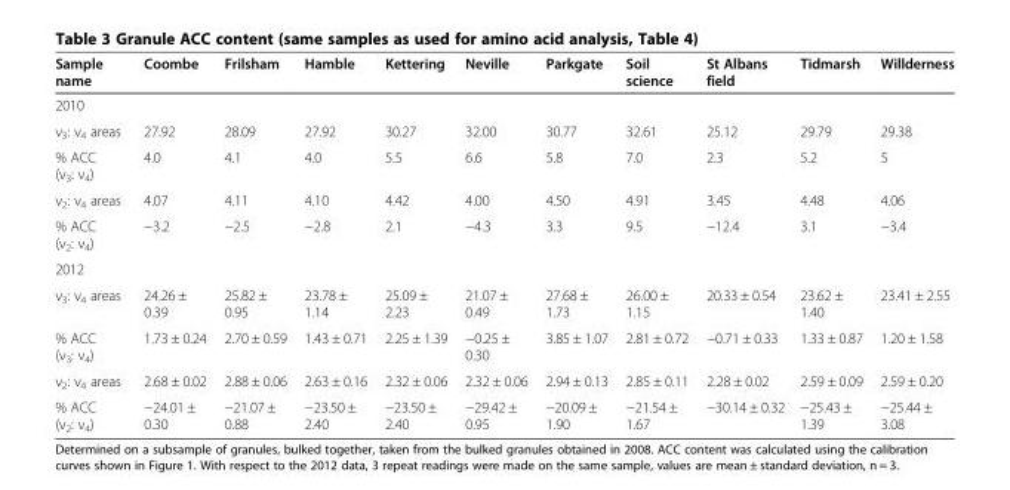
<table><thead><tr><td>Sample name</td><td>Coombe</td><td>Frilsham</td><td>Hamble</td><td>Kettering</td><td>Neville</td><td>Parkgate</td><td>Soil science</td><td>St Albans field</td><td>Tidmarsh</td><td>Willderness</td></tr></thead><tbody><tr><td colspan="11">2010</td></tr><tr><td>ν<sub>3</sub>: ν<sub>4</sub> areas</td><td>27.92</td><td>28.09</td><td>27.92</td><td>30.27</td><td>32.00</td><td>30.77</td><td>32.61</td><td>25.12</td><td>29.79</td><td>29.38</td></tr><tr><td>% ACC (ν<sub>3</sub>: ν<sub>4</sub>)</td><td>4.0</td><td>4.1</td><td>4.0</td><td>5.5</td><td>6.6</td><td>5.8</td><td>7.0</td><td>2.3</td><td>5.2</td><td>5</td></tr><tr><td>ν<sub>2</sub>: ν<sub>4</sub> areas</td><td>4.07</td><td>4.11</td><td>4.10</td><td>4.42</td><td>4.00</td><td>4.50</td><td>4.91</td><td>3.45</td><td>4.48</td><td>4.06</td></tr><tr><td>% ACC (ν<sub>2</sub>: ν<sub>4</sub>)</td><td>−3.2</td><td>−2.5</td><td>−2.8</td><td>2.1</td><td>−4.3</td><td>3.3</td><td>9.5</td><td>−12.4</td><td>3.1</td><td>−3.4</td></tr><tr><td colspan="11">2012</td></tr><tr><td>ν<sub>3</sub>: ν<sub>4</sub> areas</td><td>24.26 ± 0.39</td><td>25.82 ± 0.95</td><td>23.78 ± 1.14</td><td>25.09 ± 2.23</td><td>21.07 ± 0.49</td><td>27.68 ± 1.73</td><td>26.00 ± 1.15</td><td>20.33 ± 0.54</td><td>23.62 ± 1.40</td><td>23.41 ± 2.55</td></tr><tr><td>% ACC (ν<sub>3</sub>: ν<sub>4</sub>)</td><td>1.73 ± 0.24</td><td>2.70 ± 0.59</td><td>1.43 ± 0.71</td><td>2.25 ± 1.39</td><td>−0.25 ± 0.30</td><td>3.85 ± 1.07</td><td>2.81 ± 0.72</td><td>−0.71 ± 0.33</td><td>1.33 ± 0.87</td><td>1.20 ± 1.58</td></tr><tr><td>ν<sub>2</sub>: ν<sub>4</sub> areas</td><td>2.68 ± 0.02</td><td>2.88 ± 0.06</td><td>2.63 ± 0.16</td><td>2.32 ± 0.06</td><td>2.32 ± 0.06</td><td>2.94 ± 0.13</td><td>2.85 ± 0.11</td><td>2.28 ± 0.02</td><td>2.59 ± 0.09</td><td>2.59 ± 0.20</td></tr><tr><td>% ACC (ν<sub>2</sub>: ν<sub>4</sub>)</td><td>−24.01 ± 0.30</td><td>−21.07 ± 0.88</td><td>−23.50 ± 2.40</td><td>−23.50 ± 2.40</td><td>−29.42 ± 0.95</td><td>−20.09 ± 1.90</td><td>−21.54 ± 1.67</td><td>−30.14 ± 0.32</td><td>−25.43 ± 1.39</td><td>−25.44 ± 3.08</td></tr></tbody></table>